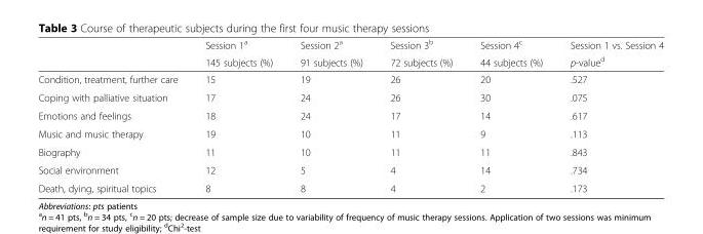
<table><thead><tr><td rowspan="2"></td><td rowspan="2">Session 1<sup>a</sup> 145 subjects (%)</td><td rowspan="2">Session 2<sup>a</sup> 91 subjects (%)</td><td rowspan="2">Session 3<sup>b</sup> 72 subjects (%)</td><td rowspan="2">Session 4<sup>c</sup> 44 subjects (%)</td><td rowspan="2">Session 1 vs. Session 4 p-value<sup>d</sup></td></tr><tr></tr></thead><tbody><tr><td>Condition, treatment, further care</td><td>15</td><td>19</td><td>26</td><td>20</td><td>.527</td></tr><tr><td>Coping with palliative situation</td><td>17</td><td>24</td><td>26</td><td>30</td><td>.075</td></tr><tr><td>Emotions and feelings</td><td>18</td><td>24</td><td>17</td><td>14</td><td>.617</td></tr><tr><td>Music and music therapy</td><td>19</td><td>10</td><td>11</td><td>9</td><td>.113</td></tr><tr><td>Biography</td><td>11</td><td>10</td><td>11</td><td>11</td><td>.843</td></tr><tr><td>Social environment</td><td>12</td><td>5</td><td>4</td><td>14</td><td>.734</td></tr><tr><td>Death, dying, spiritual topics</td><td>8</td><td>8</td><td>4</td><td>2</td><td>.173</td></tr></tbody></table>